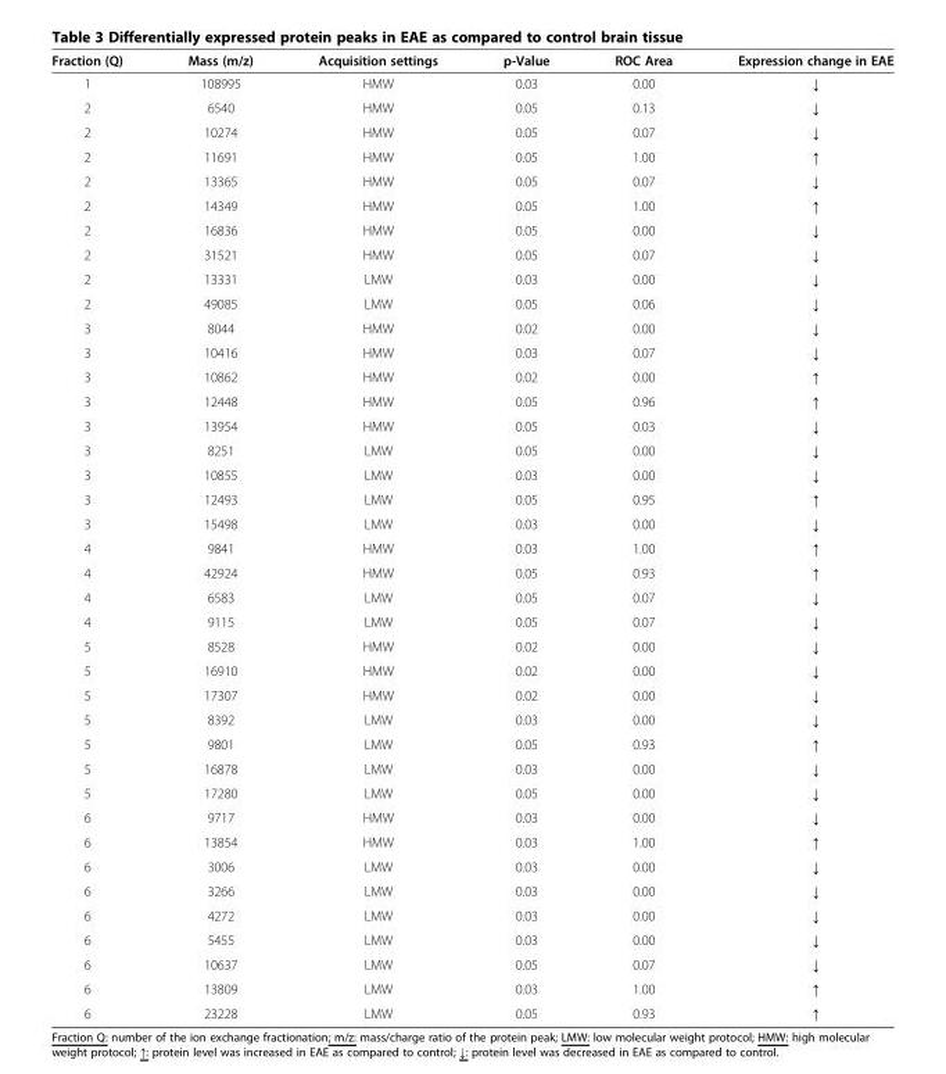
<table><thead><tr><td>Fraction (Q)</td><td>Mass (m/z)</td><td>Acquisition settings</td><td>p-Value</td><td>ROC Area</td><td>Expression change in EAE</td></tr></thead><tbody><tr><td>1</td><td>108995</td><td>HMW</td><td>0.03</td><td>0.00</td><td>↓</td></tr><tr><td>2</td><td>6540</td><td>HMW</td><td>0.05</td><td>0.13</td><td>↓</td></tr><tr><td>2</td><td>10274</td><td>HMW</td><td>0.05</td><td>0.07</td><td>↓</td></tr><tr><td>2</td><td>11691</td><td>HMW</td><td>0.05</td><td>1.00</td><td>↑</td></tr><tr><td>2</td><td>13365</td><td>HMW</td><td>0.05</td><td>0.07</td><td>↓</td></tr><tr><td>2</td><td>14349</td><td>HMW</td><td>0.05</td><td>1.00</td><td>↑</td></tr><tr><td>2</td><td>16836</td><td>HMW</td><td>0.05</td><td>0.00</td><td>↓</td></tr><tr><td>2</td><td>31521</td><td>HMW</td><td>0.05</td><td>0.07</td><td>↓</td></tr><tr><td>2</td><td>13331</td><td>LMW</td><td>0.03</td><td>0.00</td><td>↓</td></tr><tr><td>2</td><td>49085</td><td>LMW</td><td>0.05</td><td>0.06</td><td>↓</td></tr><tr><td>3</td><td>8044</td><td>HMW</td><td>0.02</td><td>0.00</td><td>↓</td></tr><tr><td>3</td><td>10416</td><td>HMW</td><td>0.03</td><td>0.07</td><td>↓</td></tr><tr><td>3</td><td>10862</td><td>HMW</td><td>0.02</td><td>0.00</td><td>↑</td></tr><tr><td>3</td><td>12448</td><td>HMW</td><td>0.05</td><td>0.96</td><td>↑</td></tr><tr><td>3</td><td>13954</td><td>HMW</td><td>0.05</td><td>0.03</td><td>↓</td></tr><tr><td>3</td><td>8251</td><td>LMW</td><td>0.05</td><td>0.00</td><td>↓</td></tr><tr><td>3</td><td>10855</td><td>LMW</td><td>0.03</td><td>0.00</td><td>↓</td></tr><tr><td>3</td><td>12493</td><td>LMW</td><td>0.05</td><td>0.95</td><td>↑</td></tr><tr><td>3</td><td>15498</td><td>LMW</td><td>0.03</td><td>0.00</td><td>↓</td></tr><tr><td>4</td><td>9841</td><td>HMW</td><td>0.03</td><td>1.00</td><td>↑</td></tr><tr><td>4</td><td>42924</td><td>HMW</td><td>0.05</td><td>0.93</td><td>↑</td></tr><tr><td>4</td><td>6583</td><td>LMW</td><td>0.05</td><td>0.07</td><td>↓</td></tr><tr><td>4</td><td>9115</td><td>LMW</td><td>0.05</td><td>0.07</td><td>↓</td></tr><tr><td>5</td><td>8528</td><td>HMW</td><td>0.02</td><td>0.00</td><td>↓</td></tr><tr><td>5</td><td>16910</td><td>HMW</td><td>0.02</td><td>0.00</td><td>↓</td></tr><tr><td>5</td><td>17307</td><td>HMW</td><td>0.02</td><td>0.00</td><td>↓</td></tr><tr><td>5</td><td>8392</td><td>LMW</td><td>0.03</td><td>0.00</td><td>↓</td></tr><tr><td>5</td><td>9801</td><td>LMW</td><td>0.05</td><td>0.93</td><td>↑</td></tr><tr><td>5</td><td>16878</td><td>LMW</td><td>0.03</td><td>0.00</td><td>↓</td></tr><tr><td>5</td><td>17280</td><td>LMW</td><td>0.05</td><td>0.00</td><td>↓</td></tr><tr><td>6</td><td>9717</td><td>HMW</td><td>0.03</td><td>0.00</td><td>↓</td></tr><tr><td>6</td><td>13854</td><td>HMW</td><td>0.03</td><td>1.00</td><td>↑</td></tr><tr><td>6</td><td>3006</td><td>LMW</td><td>0.03</td><td>0.00</td><td>↓</td></tr><tr><td>6</td><td>3266</td><td>LMW</td><td>0.03</td><td>0.00</td><td>↓</td></tr><tr><td>6</td><td>4272</td><td>LMW</td><td>0.03</td><td>0.00</td><td>↓</td></tr><tr><td>6</td><td>5455</td><td>LMW</td><td>0.03</td><td>0.00</td><td>↓</td></tr><tr><td>6</td><td>10637</td><td>LMW</td><td>0.05</td><td>0.07</td><td>↓</td></tr><tr><td>6</td><td>13809</td><td>LMW</td><td>0.03</td><td>1.00</td><td>↑</td></tr><tr><td>6</td><td>23228</td><td>LMW</td><td>0.05</td><td>0.93</td><td>↑</td></tr></tbody></table>